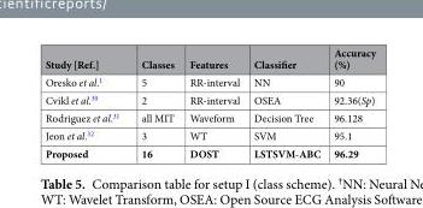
<table><thead><tr><td>Study [Ref.]</td><td>Classes</td><td>Features</td><td>Classifier</td><td>Accuracy (%)</td></tr></thead><tbody><tr><td>Oresko et al.<sup>1</sup></td><td>5</td><td>RR-interval</td><td>NN</td><td>90</td></tr><tr><td>Cvikl et al.<sup>30</sup></td><td>2</td><td>RR-interval</td><td>OSEA</td><td>92.36(Sp)</td></tr><tr><td>Rodriguez et al.<sup>31</sup></td><td>all MIT</td><td>Waveform</td><td>Decision Tree</td><td>96.128</td></tr><tr><td>Jeon et al.<sup>32</sup></td><td>3</td><td>WT</td><td>SVM</td><td>95.1</td></tr><tr><td>Proposed</td><td>16</td><td>DOST</td><td>LSTSVM-ABC</td><td>96.29</td></tr></tbody></table>